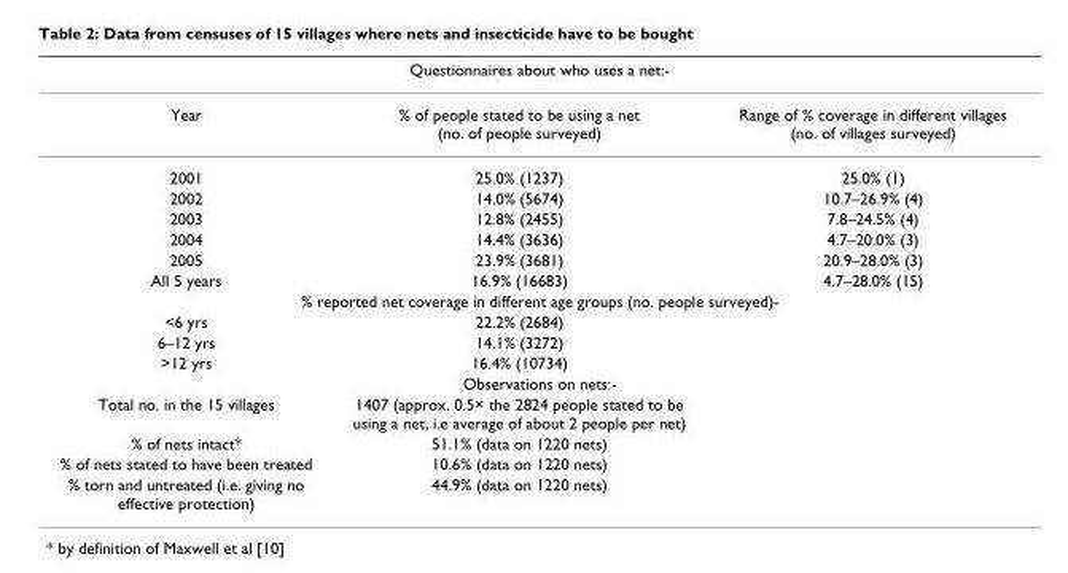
<table><thead><tr><td colspan="3">Questionnaires about who uses a net:-</td></tr><tr><td>Year</td><td>% of people stated to be using a net (no. of people surveyed)</td><td>Range of % coverage in different villages (no. of villages surveyed)</td></tr></thead><tbody><tr><td>2001</td><td>25.0% (1237)</td><td>25.0% (1)</td></tr><tr><td>2002</td><td>14.0% (5674)</td><td>10.7–26.9% (4)</td></tr><tr><td>2003</td><td>12.8% (2455)</td><td>7.8–24.5% (4)</td></tr><tr><td>2004</td><td>14.4% (3636)</td><td>4.7–20.0% (3)</td></tr><tr><td>2005</td><td>23.9% (3681)</td><td>20.9–28.0% (3)</td></tr><tr><td>All 5 years</td><td>16.9% (16683)</td><td>4.7–28.0% (15)</td></tr><tr><td colspan="3">% reported net coverage in different age groups (no. people surveyed)-</td></tr><tr><td>&lt;6 yrs</td><td>22.2% (2684)</td><td></td></tr><tr><td>6–12 yrs</td><td>14.1% (3272)</td><td></td></tr><tr><td>&gt;12 yrs</td><td>16.4% (10734)</td><td></td></tr><tr><td colspan="3">Observations on nets:-</td></tr><tr><td>Total no. in the 15 villages</td><td>1407 (approx. 0.5× the 2824 people stated to be using a net, i.e average of about 2 people per net)</td><td></td></tr><tr><td>% of nets intact*</td><td>51.1% (data on 1220 nets)</td><td></td></tr><tr><td>% of nets stated to have been treated</td><td>10.6% (data on 1220 nets)</td><td></td></tr><tr><td>% torn and untreated (i.e. giving no effective protection)</td><td>44.9% (data on 1220 nets)</td><td></td></tr></tbody></table>